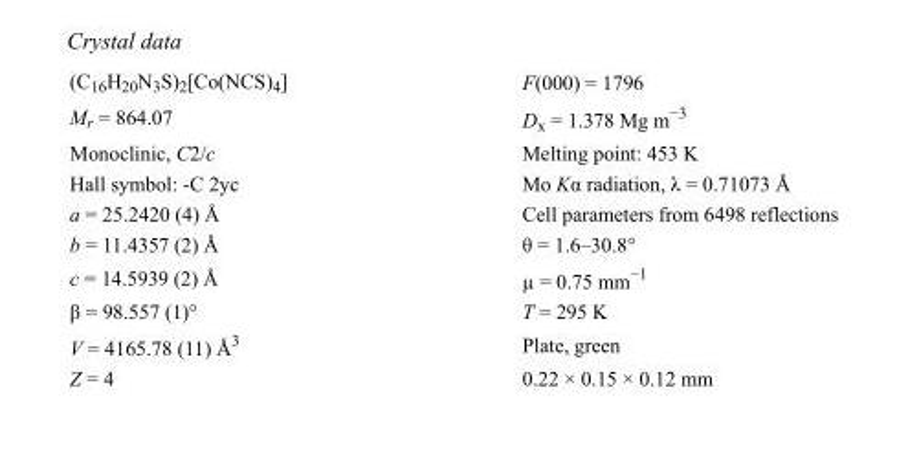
<table><tbody><tr><td>(C<sub>16</sub>H<sub>20</sub>N<sub>3</sub>S)<sub>2</sub>[Co(NCS)<sub>4</sub>]</td><td>F(000) = 1796</td></tr><tr><td>M<sub>r</sub> = 864.07</td><td>D<sub>x</sub> = 1.378 Mg m<sup>−3</sup></td></tr><tr><td>Monoclinic, C2/c</td><td>Melting point: 453 K</td></tr><tr><td>Hall symbol: -C 2yc</td><td>Mo Kα radiation, λ = 0.71073 Å</td></tr><tr><td>a = 25.2420 (4) Å</td><td>Cell parameters from 6498 reflections</td></tr><tr><td>b = 11.4357 (2) Å</td><td>θ = 1.6–30.8°</td></tr><tr><td>c = 14.5939 (2) Å</td><td>µ = 0.75 mm<sup>−1</sup></td></tr><tr><td>β = 98.557 (1)°</td><td>T = 295 K</td></tr><tr><td>V = 4165.78 (11) Å<sup>3</sup></td><td>Plate, green</td></tr><tr><td>Z = 4</td><td>0.22 × 0.15 × 0.12 mm</td></tr></tbody></table>